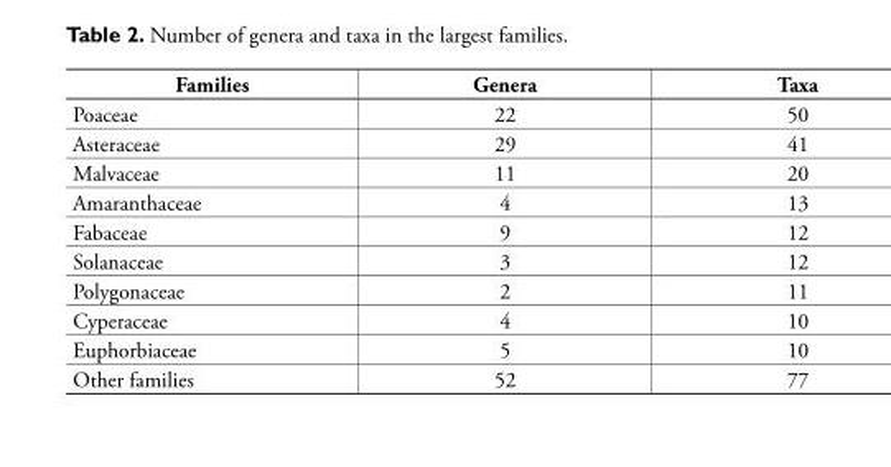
<table><thead><tr><td>Families</td><td>Genera</td><td>Taxa</td></tr></thead><tbody><tr><td>Poaceae</td><td>22</td><td>50</td></tr><tr><td>Asteraceae</td><td>29</td><td>41</td></tr><tr><td>Malvaceae</td><td>11</td><td>20</td></tr><tr><td>Amaranthaceae</td><td>4</td><td>13</td></tr><tr><td>Fabaceae</td><td>9</td><td>12</td></tr><tr><td>Solanaceae</td><td>3</td><td>12</td></tr><tr><td>Polygonaceae</td><td>2</td><td>11</td></tr><tr><td>Cyperaceae</td><td>4</td><td>10</td></tr><tr><td>Euphorbiaceae</td><td>5</td><td>10</td></tr><tr><td>Other families</td><td>52</td><td>77</td></tr></tbody></table>